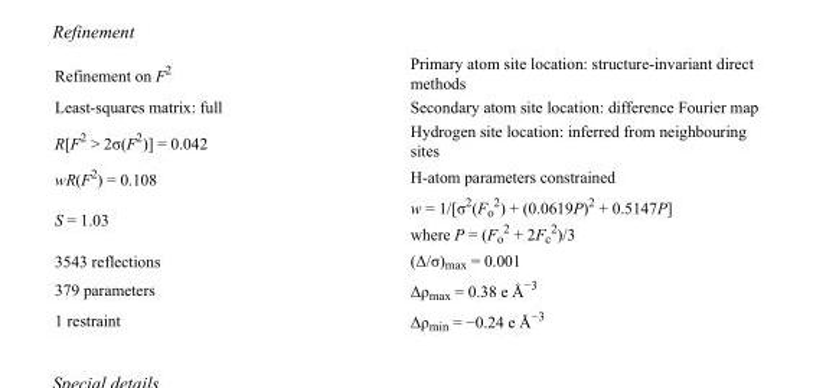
<table><tbody><tr><td>Refinement on F<sup>2</sup></td><td>Primary atom site location: structure-invariant direct methods</td></tr><tr><td>Least-squares matrix: full</td><td>Secondary atom site location: difference Fourier map</td></tr><tr><td>R[F<sup>2</sup> &gt; 2σ(F<sup>2</sup>)] = 0.042</td><td>Hydrogen site location: inferred from neighbouring sites</td></tr><tr><td>wR(F<sup>2</sup>) = 0.108</td><td>H-atom parameters constrained</td></tr><tr><td>S = 1.03</td><td>w = 1/[σ<sup>2</sup>(F<sub>o</sub> <sup>2</sup>) + (0.0619P)<sup>2</sup> + 0.5147P] where P = (F<sub>o</sub> <sup>2</sup> + 2F<sub>c</sub> <sup>2</sup>)/3</td></tr><tr><td>3543 reflections</td><td>(Δ/σ)<sub>max</sub> = 0.001</td></tr><tr><td>379 parameters</td><td>Δρ<sub>max</sub> = 0.38 e Å<sup>−3</sup></td></tr><tr><td>1 restraint</td><td>Δρ<sub>min</sub> = −0.24 e Å<sup>−3</sup></td></tr></tbody></table>